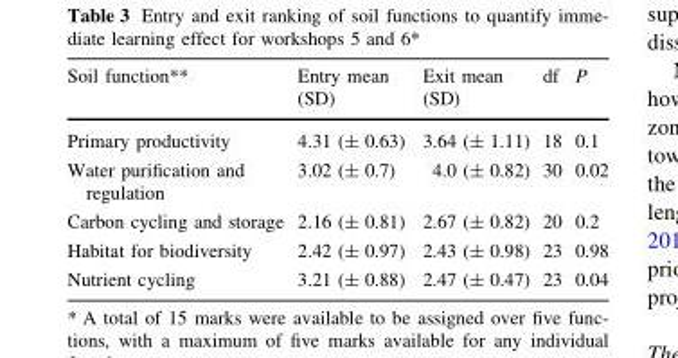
<table><thead><tr><td>Soil function**</td><td>Entry mean (SD)</td><td>Exit mean (SD)</td><td>df</td><td>P</td></tr></thead><tbody><tr><td>Primary productivity</td><td>4.31 (± 0.63)</td><td>3.64 (± 1.11)</td><td>18</td><td>0.1</td></tr><tr><td>Water purification and regulation</td><td>3.02 (± 0.7)</td><td>4.0 (± 0.82)</td><td>30</td><td>0.02</td></tr><tr><td>Carbon cycling and storage</td><td>2.16 (± 0.81)</td><td>2.67 (± 0.82)</td><td>20</td><td>0.2</td></tr><tr><td>Habitat for biodiversity</td><td>2.42 (± 0.97)</td><td>2.43 (± 0.98)</td><td>23</td><td>0.98</td></tr><tr><td>Nutrient cycling</td><td>3.21 (± 0.88)</td><td>2.47 (± 0.47)</td><td>23</td><td>0.04</td></tr></tbody></table>